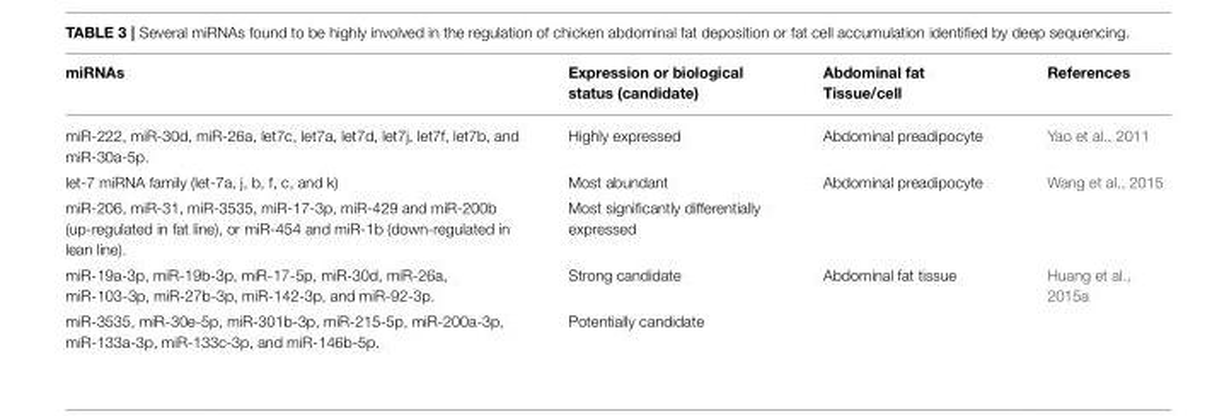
<table><thead><tr><td>miRNAs</td><td>Expression or biological status (candidate)</td><td>Abdominal fat Tissue/cell</td><td>References</td></tr></thead><tbody><tr><td>miR-222, miR-30d, miR-26a, let7c, let7a, let7d, let7j, let7f, let7b, and miR-30a-5p.</td><td>Highly expressed</td><td>Abdominal preadipocyte</td><td>Yao et al., 2011</td></tr><tr><td>let-7 miRNA family (let-7a, j, b, f, c, and k)</td><td>Most abundant</td><td>Abdominal preadipocyte</td><td>Wang et al., 2015</td></tr><tr><td>miR-206, miR-31, miR-3535, miR-17-3p, miR-429 and miR-200b (up-regulated in fat line), or miR-454 and miR-1b (down-regulated in lean line).</td><td>Most significantly differentially expressed</td><td></td><td></td></tr><tr><td>miR-19a-3p, miR-19b-3p, miR-17-5p, miR-30d, miR-26a, miR-103-3p, miR-27b-3p, miR-142-3p, and miR-92-3p.</td><td>Strong candidate</td><td>Abdominal fat tissue</td><td>Huang et al., 2015a</td></tr><tr><td>miR-3535, miR-30e-5p, miR-301b-3p, miR-215-5p, miR-200a-3p, miR-133a-3p, miR-133c-3p, and miR-146b-5p.</td><td>Potentially candidate</td><td></td><td></td></tr></tbody></table>